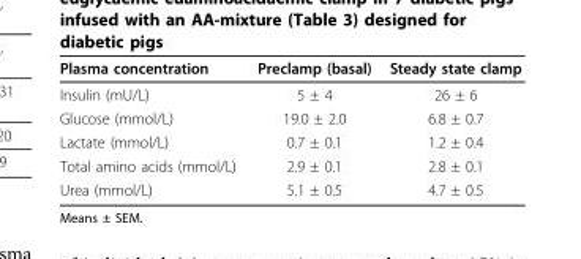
<table><thead><tr><td>Plasma concentration</td><td>Preclamp (basal)</td><td>Steady state clamp</td></tr></thead><tbody><tr><td>Insulin (mU/L)</td><td>5 ± 4</td><td>26 ± 6</td></tr><tr><td>Glucose (mmol/L)</td><td>19.0 ± 2.0</td><td>6.8 ± 0.7</td></tr><tr><td>Lactate (mmol/L)</td><td>0.7 ± 0.1</td><td>1.2 ± 0.4</td></tr><tr><td>Total amino acids (mmol/L)</td><td>2.9 ± 0.1</td><td>2.8 ± 0.1</td></tr><tr><td>Urea (mmol/L)</td><td>5.1 ± 0.5</td><td>4.7 ± 0.5</td></tr></tbody></table>